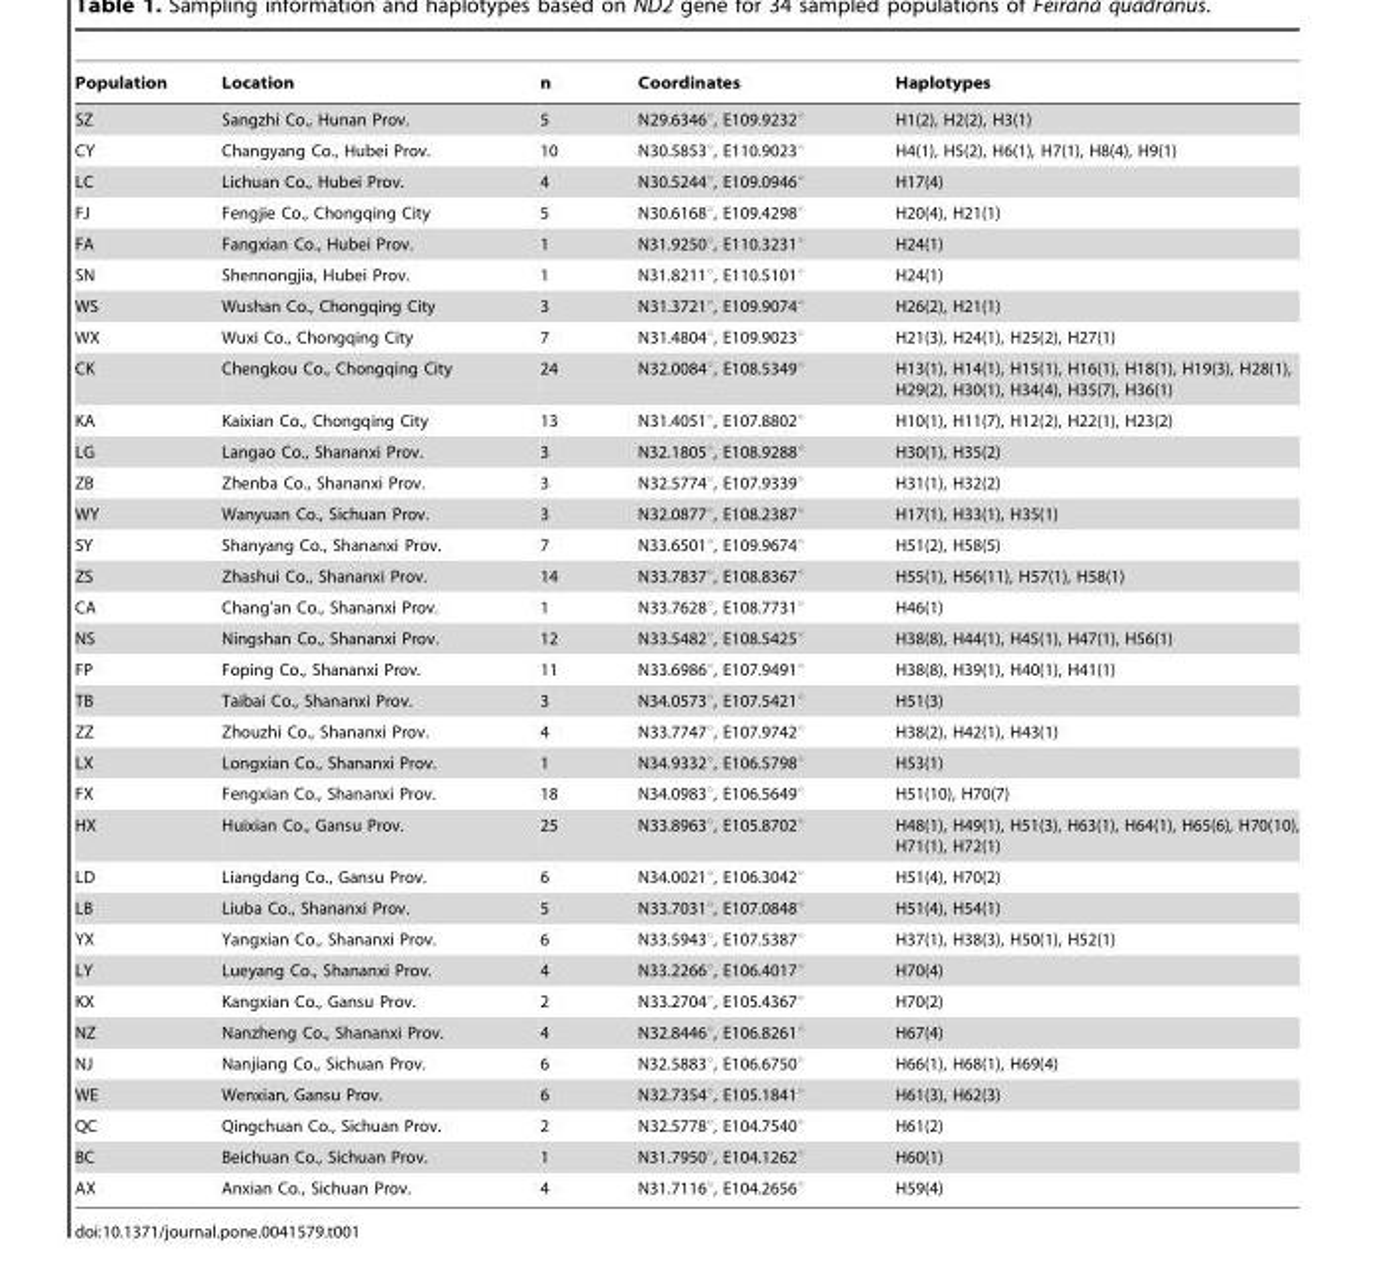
<table><thead><tr><td>Population</td><td>Location</td><td>n</td><td>Coordinates</td><td>Haplotypes</td></tr></thead><tbody><tr><td>SZ</td><td>Sangzhi Co., Hunan Prov.</td><td>5</td><td>N29.6346°, E109.9232°</td><td>H1(2), H2(2), H3(1)</td></tr><tr><td>CY</td><td>Changyang Co., Hubei Prov.</td><td>10</td><td>N30.5853°, E110.9023°</td><td>H4(1), H5(2), H6(1), H7(1), H8(4), H9(1)</td></tr><tr><td>LC</td><td>Lichuan Co., Hubei Prov.</td><td>4</td><td>N30.5244°, E109.0946°</td><td>H17(4)</td></tr><tr><td>FJ</td><td>Fengjie Co., Chongqing City</td><td>5</td><td>N30.6168°, E109.4298°</td><td>H20(4), H21(1)</td></tr><tr><td>FA</td><td>Fangxian Co., Hubei Prov.</td><td>1</td><td>N31.9250°, E110.3231°</td><td>H24(1)</td></tr><tr><td>SN</td><td>Shennongjia, Hubei Prov.</td><td>1</td><td>N31.8211°, E110.5101°</td><td>H24(1)</td></tr><tr><td>WS</td><td>Wushan Co., Chongqing City</td><td>3</td><td>N31.3721°, E109.9074°</td><td>H26(2), H21(1)</td></tr><tr><td>WX</td><td>Wuxi Co., Chongqing City</td><td>7</td><td>N31.4804°, E109.9023°</td><td>H21(3), H24(1), H25(2), H27(1)</td></tr><tr><td>CK</td><td>Chengkou Co., Chongqing City</td><td>24</td><td>N32.0084°, E108.5349°</td><td>H13(1), H14(1), H15(1), H16(1), H18(1), H19(3), H28(1), H29(2), H30(1), H34(4), H35(7), H36(1)</td></tr><tr><td>KA</td><td>Kaixian Co., Chongqing City</td><td>13</td><td>N31.4051°, E107.8802°</td><td>H10(1), H11(7), H12(2), H22(1), H23(2)</td></tr><tr><td>LG</td><td>Langao Co., Shananxi Prov.</td><td>3</td><td>N32.1805°, E108.9288°</td><td>H30(1), H35(2)</td></tr><tr><td>ZB</td><td>Zhenba Co., Shananxi Prov.</td><td>3</td><td>N32.5774°, E107.9339°</td><td>H31(1), H32(2)</td></tr><tr><td>WY</td><td>Wanyuan Co., Sichuan Prov.</td><td>3</td><td>N32.0877°, E108.2387°</td><td>H17(1), H33(1), H35(1)</td></tr><tr><td>SY</td><td>Shanyang Co., Shananxi Prov.</td><td>7</td><td>N33.6501°, E109.9674°</td><td>H51(2), H58(5)</td></tr><tr><td>ZS</td><td>Zhashui Co., Shananxi Prov.</td><td>14</td><td>N33.7837°, E108.8367°</td><td>H55(1), H56(11), H57(1), H58(1)</td></tr><tr><td>CA</td><td>Chang’an Co., Shananxi Prov.</td><td>1</td><td>N33.7628°, E108.7731°</td><td>H46(1)</td></tr><tr><td>NS</td><td>Ningshan Co., Shananxi Prov.</td><td>12</td><td>N33.5482°, E108.5425°</td><td>H38(8), H44(1), H45(1), H47(1), H56(1)</td></tr><tr><td>FP</td><td>Foping Co., Shananxi Prov.</td><td>11</td><td>N33.6986°, E107.9491°</td><td>H38(8), H39(1), H40(1), H41(1)</td></tr><tr><td>TB</td><td>Taibai Co., Shananxi Prov.</td><td>3</td><td>N34.0573°, E107.5421°</td><td>H51(3)</td></tr><tr><td>ZZ</td><td>Zhouzhi Co., Shananxi Prov.</td><td>4</td><td>N33.7747°, E107.9742°</td><td>H38(2), H42(1), H43(1)</td></tr><tr><td>LX</td><td>Longxian Co., Shananxi Prov.</td><td>1</td><td>N34.9332°, E106.5798°</td><td>H53(1)</td></tr><tr><td>FX</td><td>Fengxian Co., Shananxi Prov.</td><td>18</td><td>N34.0983°, E106.5649°</td><td>H51(10), H70(7)</td></tr><tr><td>HX</td><td>Huixian Co., Gansu Prov.</td><td>25</td><td>N33.8963°, E105.8702°</td><td>H48(1), H49(1), H51(3), H63(1), H64(1), H65(6), H70(10), H71(1), H72(1)</td></tr><tr><td>LD</td><td>Liangdang Co., Gansu Prov.</td><td>6</td><td>N34.0021°, E106.3042°</td><td>H51(4), H70(2)</td></tr><tr><td>LB</td><td>Liuba Co., Shananxi Prov.</td><td>5</td><td>N33.7031°, E107.0848°</td><td>H51(4), H54(1)</td></tr><tr><td>YX</td><td>Yangxian Co., Shananxi Prov.</td><td>6</td><td>N33.5943°, E107.5387°</td><td>H37(1), H38(3), H50(1), H52(1)</td></tr><tr><td>LY</td><td>Lueyang Co., Shananxi Prov.</td><td>4</td><td>N33.2266°, E106.4017°</td><td>H70(4)</td></tr><tr><td>KX</td><td>Kangxian Co., Gansu Prov.</td><td>2</td><td>N33.2704°, E105.4367°</td><td>H70(2)</td></tr><tr><td>NZ</td><td>Nanzheng Co., Shananxi Prov.</td><td>4</td><td>N32.8446°, E106.8261°</td><td>H67(4)</td></tr><tr><td>NJ</td><td>Nanjiang Co., Sichuan Prov.</td><td>6</td><td>N32.5883°, E106.6750°</td><td>H66(1), H68(1), H69(4)</td></tr><tr><td>WE</td><td>Wenxian, Gansu Prov.</td><td>6</td><td>N32.7354°, E105.1841°</td><td>H61(3), H62(3)</td></tr><tr><td>QC</td><td>Qingchuan Co., Sichuan Prov.</td><td>2</td><td>N32.5778°, E104.7540°</td><td>H61(2)</td></tr><tr><td>BC</td><td>Beichuan Co., Sichuan Prov.</td><td>1</td><td>N31.7950°, E104.1262°</td><td>H60(1)</td></tr><tr><td>AX</td><td>Anxian Co., Sichuan Prov.</td><td>4</td><td>N31.7116°, E104.2656°</td><td>H59(4)</td></tr></tbody></table>